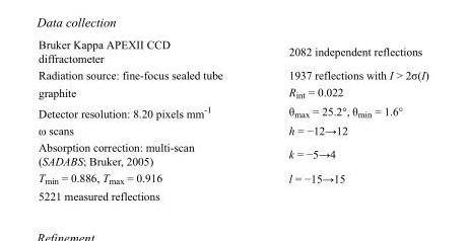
<table><tbody><tr><td>Bruker Kappa APEXII CCD diffractometer</td><td>2082 independent reflections</td></tr><tr><td>Radiation source: fine-focus sealed tube</td><td>1937 reflections with I &gt; 2σ(I)</td></tr><tr><td>graphite</td><td>R<sub>int</sub> = 0.022</td></tr><tr><td>Detector resolution: 8.20 pixels mm<sup>-1</sup></td><td>θ<sub>max</sub> = 25.2°, θ<sub>min</sub> = 1.6°</td></tr><tr><td>ω scans</td><td>h = −12→12</td></tr><tr><td>Absorption correction: multi-scan (SADABS; Bruker, 2005)</td><td>k = −5→4</td></tr><tr><td>T<sub>min</sub> = 0.886, T<sub>max</sub> = 0.916</td><td>l = −15→15</td></tr><tr><td>5221 measured reflections</td><td></td></tr></tbody></table>